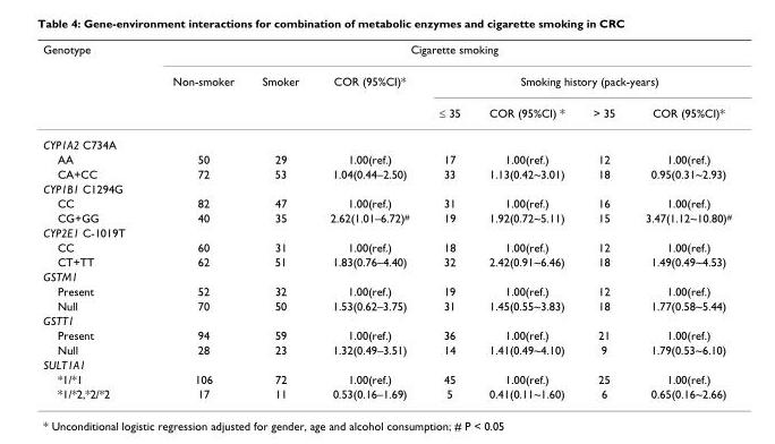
<table><thead><tr><td rowspan="3">Genotype</td><td colspan="7">Cigarette smoking</td></tr><tr><td rowspan="2">Non-smoker</td><td rowspan="2">Smoker</td><td rowspan="2">COR (95%CI)*</td><td colspan="4">Smoking history (pack-years)</td></tr><tr><td>≤ 35</td><td>COR (95%CI) *</td><td>&gt; 35</td><td>COR (95%CI)*</td></tr></thead><tbody><tr><td colspan="8">CYP1A2 C734A</td></tr><tr><td>AA</td><td>50</td><td>29</td><td>1.00(ref.)</td><td>17</td><td>1.00(ref.)</td><td>12</td><td>1.00(ref.)</td></tr><tr><td>CA+CC</td><td>72</td><td>53</td><td>1.04(0.44–2.50)</td><td>33</td><td>1.13(0.42~3.01)</td><td>18</td><td>0.95(0.31~2.93)</td></tr><tr><td colspan="8">CYP1B1 C1294G</td></tr><tr><td>CC</td><td>82</td><td>47</td><td>1.00(ref.)</td><td>31</td><td>1.00(ref.)</td><td>16</td><td>1.00(ref.)</td></tr><tr><td>CG+GG</td><td>40</td><td>35</td><td>2.62(1.01–6.72)<sup>#</sup></td><td>19</td><td>1.92(0.72~5.11)</td><td>15</td><td>3.47(1.12~10.80)<sup>#</sup></td></tr><tr><td colspan="8">CYP2E1 C-1019T</td></tr><tr><td>CC</td><td>60</td><td>31</td><td>1.00(ref.)</td><td>18</td><td>1.00(ref.)</td><td>12</td><td>1.00(ref.)</td></tr><tr><td>CT+TT</td><td>62</td><td>51</td><td>1.83(0.76–4.40)</td><td>32</td><td>2.42(0.91~6.46)</td><td>18</td><td>1.49(0.49~4.53)</td></tr><tr><td colspan="8">GSTM1</td></tr><tr><td>Present</td><td>52</td><td>32</td><td>1.00(ref.)</td><td>19</td><td>1.00(ref.)</td><td>12</td><td>1.00(ref.)</td></tr><tr><td>Null</td><td>70</td><td>50</td><td>1.53(0.62–3.75)</td><td>31</td><td>1.45(0.55~3.83)</td><td>18</td><td>1.77(0.58~5.44)</td></tr><tr><td colspan="8">GSTT1</td></tr><tr><td>Present</td><td>94</td><td>59</td><td>1.00(ref.)</td><td>36</td><td>1.00(ref.)</td><td>21</td><td>1.00(ref.)</td></tr><tr><td>Null</td><td>28</td><td>23</td><td>1.32(0.49–3.51)</td><td>14</td><td>1.41(0.49~4.10)</td><td>9</td><td>1.79(0.53~6.10)</td></tr><tr><td colspan="8">SULT1A1</td></tr><tr><td>*1/*1</td><td>106</td><td>72</td><td>1.00(ref.)</td><td>45</td><td>1.00(ref.)</td><td>25</td><td>1.00(ref.)</td></tr><tr><td>*1/*2,*2/*2</td><td>17</td><td>11</td><td>0.53(0.16–1.69)</td><td>5</td><td>0.41(0.11~1.60)</td><td>6</td><td>0.65(0.16~2.66)</td></tr></tbody></table>